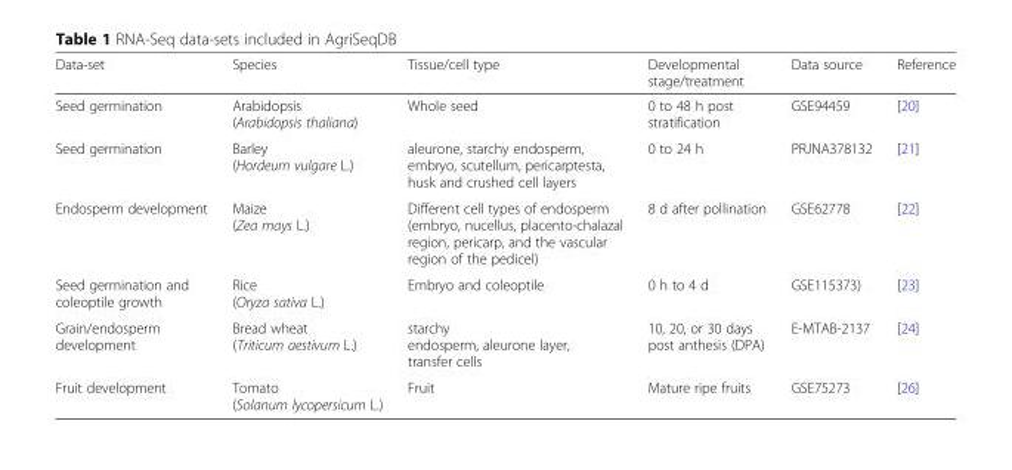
<table><thead><tr><td>Data-set</td><td>Species</td><td>Tissue/cell type</td><td>Developmental stage/treatment</td><td>Data source</td><td>Reference</td></tr></thead><tbody><tr><td>Seed germination</td><td>Arabidopsis (Arabidopsis thaliana)</td><td>Whole seed</td><td>0 to 48 h post stratification</td><td>GSE94459</td><td>[20]</td></tr><tr><td>Seed germination</td><td>Barley (Hordeum vulgare L.)</td><td>aleurone, starchy endosperm, embryo, scutellum, pericarptesta, husk and crushed cell layers</td><td>0 to 24 h</td><td>PRJNA378132</td><td>[21]</td></tr><tr><td>Endosperm development</td><td>Maize (Zea mays L.)</td><td>Different cell types of endosperm (embryo, nucellus, placento-chalazal region, pericarp, and the vascular region of the pedicel)</td><td>8 d after pollination</td><td>GSE62778</td><td>[22]</td></tr><tr><td>Seed germination and coleoptile growth</td><td>Rice (Oryza sativa L.)</td><td>Embryo and coleoptile</td><td>0 h to 4 d</td><td>GSE115373)</td><td>[23]</td></tr><tr><td>Grain/endosperm development</td><td>Bread wheat (Triticum aestivum L.)</td><td>starchy endosperm, aleurone layer, transfer cells</td><td>10, 20, or 30 days post anthesis (DPA)</td><td>E-MTAB-2137</td><td>[24]</td></tr><tr><td>Fruit development</td><td>Tomato (Solanum lycopersicum L.)</td><td>Fruit</td><td>Mature ripe fruits</td><td>GSE75273</td><td>[26]</td></tr></tbody></table>